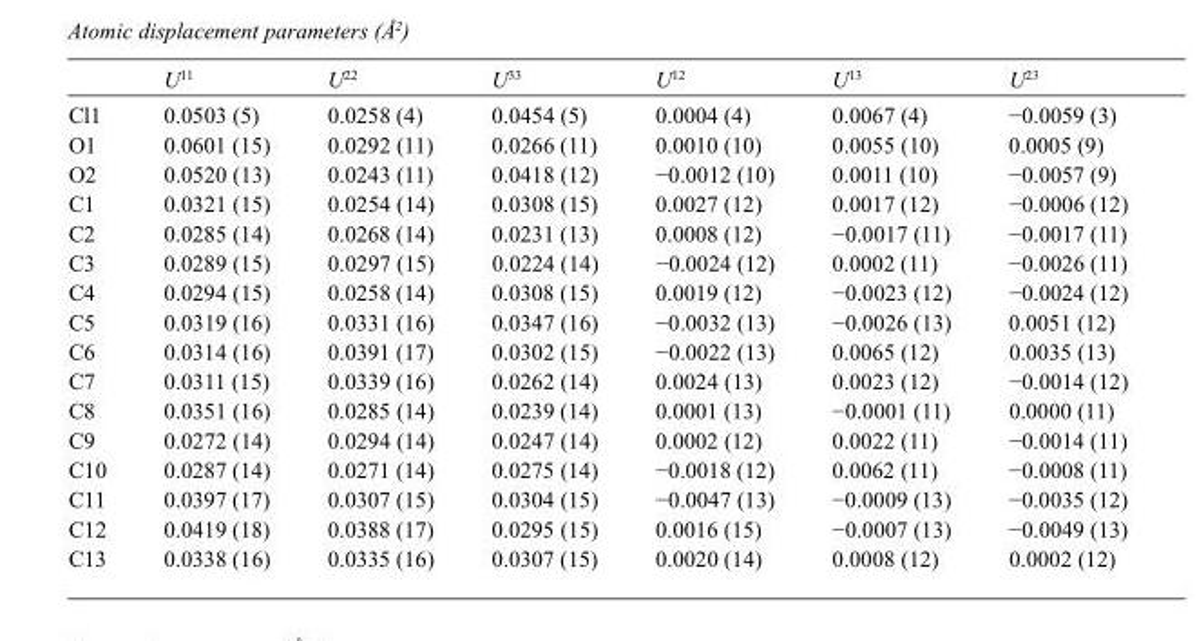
<table><thead><tr><td></td><td>U<sup>11</sup></td><td>U<sup>22</sup></td><td>U<sup>33</sup></td><td>U<sup>12</sup></td><td>U<sup>13</sup></td><td>U<sup>23</sup></td></tr></thead><tbody><tr><td>Cl1</td><td>0.0503 (5)</td><td>0.0258 (4)</td><td>0.0454 (5)</td><td>0.0004 (4)</td><td>0.0067 (4)</td><td>−0.0059 (3)</td></tr><tr><td>O1</td><td>0.0601 (15)</td><td>0.0292 (11)</td><td>0.0266 (11)</td><td>0.0010 (10)</td><td>0.0055 (10)</td><td>0.0005 (9)</td></tr><tr><td>O2</td><td>0.0520 (13)</td><td>0.0243 (11)</td><td>0.0418 (12)</td><td>−0.0012 (10)</td><td>0.0011 (10)</td><td>−0.0057 (9)</td></tr><tr><td>C1</td><td>0.0321 (15)</td><td>0.0254 (14)</td><td>0.0308 (15)</td><td>0.0027 (12)</td><td>0.0017 (12)</td><td>−0.0006 (12)</td></tr><tr><td>C2</td><td>0.0285 (14)</td><td>0.0268 (14)</td><td>0.0231 (13)</td><td>0.0008 (12)</td><td>−0.0017 (11)</td><td>−0.0017 (11)</td></tr><tr><td>C3</td><td>0.0289 (15)</td><td>0.0297 (15)</td><td>0.0224 (14)</td><td>−0.0024 (12)</td><td>0.0002 (11)</td><td>−0.0026 (11)</td></tr><tr><td>C4</td><td>0.0294 (15)</td><td>0.0258 (14)</td><td>0.0308 (15)</td><td>0.0019 (12)</td><td>−0.0023 (12)</td><td>−0.0024 (12)</td></tr><tr><td>C5</td><td>0.0319 (16)</td><td>0.0331 (16)</td><td>0.0347 (16)</td><td>−0.0032 (13)</td><td>−0.0026 (13)</td><td>0.0051 (12)</td></tr><tr><td>C6</td><td>0.0314 (16)</td><td>0.0391 (17)</td><td>0.0302 (15)</td><td>−0.0022 (13)</td><td>0.0065 (12)</td><td>0.0035 (13)</td></tr><tr><td>C7</td><td>0.0311 (15)</td><td>0.0339 (16)</td><td>0.0262 (14)</td><td>0.0024 (13)</td><td>0.0023 (12)</td><td>−0.0014 (12)</td></tr><tr><td>C8</td><td>0.0351 (16)</td><td>0.0285 (14)</td><td>0.0239 (14)</td><td>0.0001 (13)</td><td>−0.0001 (11)</td><td>0.0000 (11)</td></tr><tr><td>C9</td><td>0.0272 (14)</td><td>0.0294 (14)</td><td>0.0247 (14)</td><td>0.0002 (12)</td><td>0.0022 (11)</td><td>−0.0014 (11)</td></tr><tr><td>C10</td><td>0.0287 (14)</td><td>0.0271 (14)</td><td>0.0275 (14)</td><td>−0.0018 (12)</td><td>0.0062 (11)</td><td>−0.0008 (11)</td></tr><tr><td>C11</td><td>0.0397 (17)</td><td>0.0307 (15)</td><td>0.0304 (15)</td><td>−0.0047 (13)</td><td>−0.0009 (13)</td><td>−0.0035 (12)</td></tr><tr><td>C12</td><td>0.0419 (18)</td><td>0.0388 (17)</td><td>0.0295 (15)</td><td>0.0016 (15)</td><td>−0.0007 (13)</td><td>−0.0049 (13)</td></tr><tr><td>C13</td><td>0.0338 (16)</td><td>0.0335 (16)</td><td>0.0307 (15)</td><td>0.0020 (14)</td><td>0.0008 (12)</td><td>0.0002 (12)</td></tr></tbody></table>